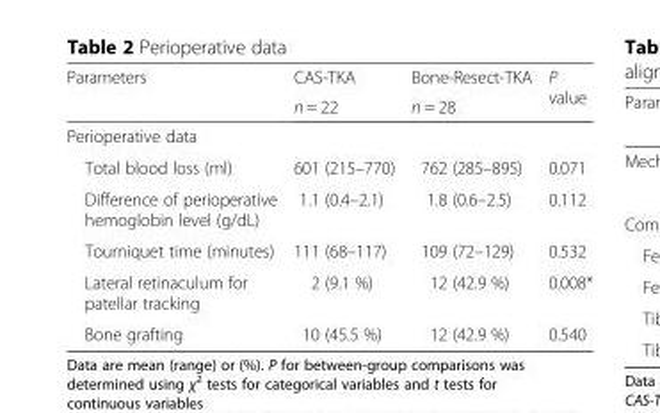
<table><thead><tr><td rowspan="2">Parameters</td><td rowspan="2">CAS-TKA n = 22</td><td rowspan="2">Bone-Resect-TKA n = 28</td><td rowspan="2">P value</td></tr><tr></tr></thead><tbody><tr><td colspan="4">Perioperative data</td></tr><tr><td>Total blood loss (ml)</td><td>601 (215–770)</td><td>762 (285–895)</td><td>0.071</td></tr><tr><td>Difference of perioperative hemoglobin level (g/dL)</td><td>1.1 (0.4–2.1)</td><td>1.8 (0.6–2.5)</td><td>0.112</td></tr><tr><td>Tourniquet time (minutes)</td><td>111 (68–117)</td><td>109 (72–129)</td><td>0.532</td></tr><tr><td>Lateral retinaculum for patellar tracking</td><td>2 (9.1 %)</td><td>12 (42.9 %)</td><td>0.008*</td></tr><tr><td>Bone grafting</td><td>10 (45.5 %)</td><td>12 (42.9 %)</td><td>0.540</td></tr></tbody></table>